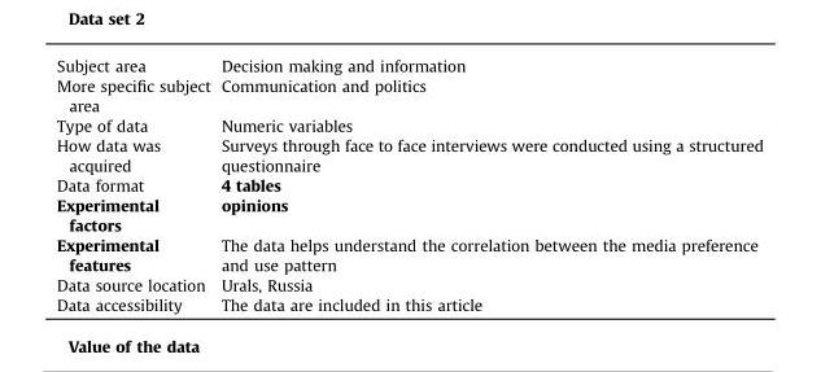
<table><tbody><tr><td>Subject area</td><td>Decision making and information</td></tr><tr><td>More specific subject area</td><td>Communication and politics</td></tr><tr><td>Type of data</td><td>Numeric variables</td></tr><tr><td>How data was acquired</td><td>Surveys through face to face interviews were conducted using a structured questionnaire</td></tr><tr><td>Data format</td><td>4 tables</td></tr><tr><td>Experimental factors</td><td>opinions</td></tr><tr><td>Experimental features</td><td>The data helps understand the correlation between the media preference and use pattern</td></tr><tr><td>Data source location</td><td>Urals, Russia</td></tr><tr><td>Data accessibility</td><td>The data are included in this article</td></tr></tbody></table>